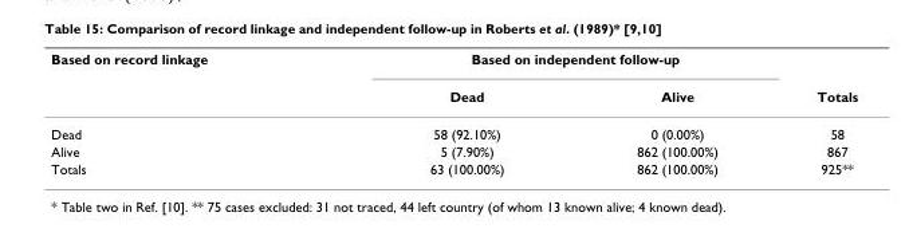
<table><thead><tr><td rowspan="2">Based on record linkage</td><td colspan="2">Based on independent follow-up</td><td rowspan="2">Totals</td></tr><tr><td>Dead</td><td>Alive</td></tr></thead><tbody><tr><td>Dead</td><td>58 (92.10%)</td><td>0 (0.00%)</td><td>58</td></tr><tr><td>Alive</td><td>5 (7.90%)</td><td>862 (100.00%)</td><td>867</td></tr><tr><td>Totals</td><td>63 (100.00%)</td><td>862 (100.00%)</td><td>925**</td></tr></tbody></table>